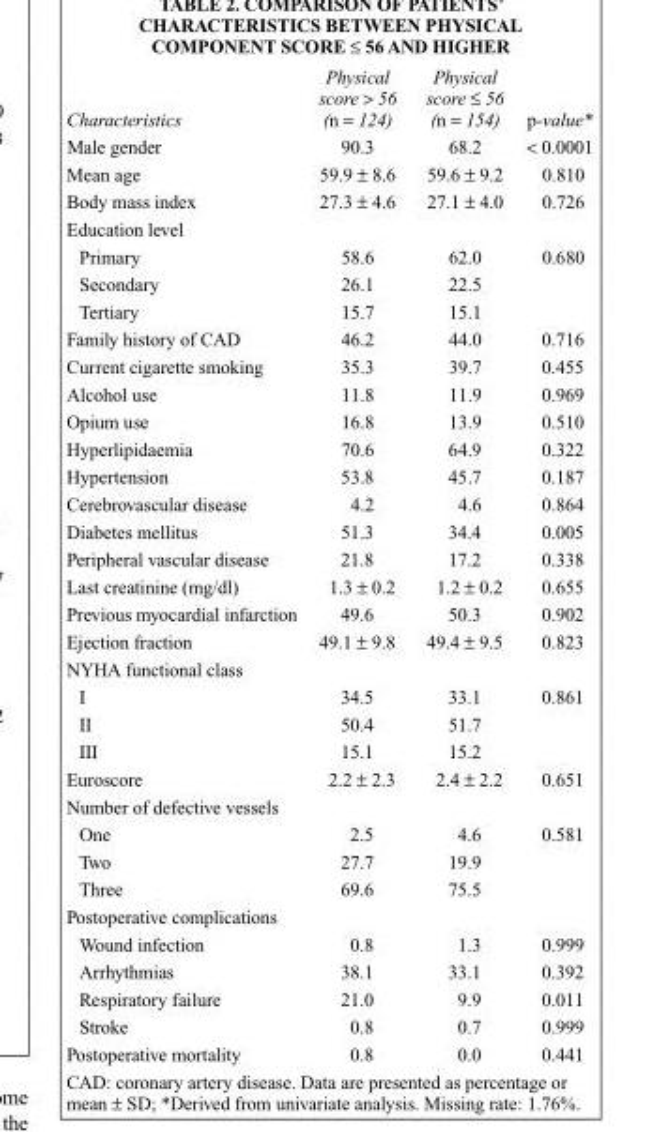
<table><thead><tr><td>Characteristics</td><td>Physical score &gt; 56 (n = 124)</td><td>Physical score ≤ 56 (n = 154)</td><td>p-value*</td></tr></thead><tbody><tr><td>Male gender</td><td>90.3</td><td>68.2</td><td>&lt; 0.0001</td></tr><tr><td>Mean age</td><td>59.9 ± 8.6</td><td>59.6 ± 9.2</td><td>0.810</td></tr><tr><td>Body mass index</td><td>27.3 ± 4.6</td><td>27.1 ± 4.0</td><td>0.726</td></tr><tr><td colspan="4">Education level</td></tr><tr><td>Primary</td><td>58.6</td><td>62.0</td><td>0.680</td></tr><tr><td>Secondary</td><td>26.1</td><td>22.5</td><td></td></tr><tr><td>Tertiary</td><td>15.7</td><td>15.1</td><td></td></tr><tr><td>Family history of CAD</td><td>46.2</td><td>44.0</td><td>0.716</td></tr><tr><td>Current cigarette smoking</td><td>35.3</td><td>39.7</td><td>0.455</td></tr><tr><td>Alcohol use</td><td>11.8</td><td>11.9</td><td>0.969</td></tr><tr><td>Opium use</td><td>16.8</td><td>13.9</td><td>0.510</td></tr><tr><td>Hyperlipidaemia</td><td>70.6</td><td>64.9</td><td>0.322</td></tr><tr><td>Hypertension</td><td>53.8</td><td>45.7</td><td>0.187</td></tr><tr><td>Cerebrovascular disease</td><td>4.2</td><td>4.6</td><td>0.864</td></tr><tr><td>Diabetes mellitus</td><td>51.3</td><td>34.4</td><td>0.005</td></tr><tr><td>Peripheral vascular disease</td><td>21.8</td><td>17.2</td><td>0.338</td></tr><tr><td>Last creatinine (mg/dl)</td><td>1.3 ± 0.2</td><td>1.2 ± 0.2</td><td>0.655</td></tr><tr><td>Previous myocardial infarction</td><td>49.6</td><td>50.3</td><td>0.902</td></tr><tr><td>Ejection fraction</td><td>49.1 ± 9.8</td><td>49.4 ± 9.5</td><td>0.823</td></tr><tr><td colspan="4">NYHA functional class</td></tr><tr><td>I</td><td>34.5</td><td>33.1</td><td>0.861</td></tr><tr><td>II</td><td>50.4</td><td>51.7</td><td></td></tr><tr><td>III</td><td>15.1</td><td>15.2</td><td></td></tr><tr><td>Euroscore</td><td>2.2 ± 2.3</td><td>2.4 ± 2.2</td><td>0.651</td></tr><tr><td colspan="4">Number of defective vessels</td></tr><tr><td>One</td><td>2.5</td><td>4.6</td><td>0.581</td></tr><tr><td>Two</td><td>27.7</td><td>19.9</td><td></td></tr><tr><td>Three</td><td>69.6</td><td>75.5</td><td></td></tr><tr><td colspan="4">Postoperative complications</td></tr><tr><td>Wound infection</td><td>0.8</td><td>1.3</td><td>0.999</td></tr><tr><td>Arrhythmias</td><td>38.1</td><td>33.1</td><td>0.392</td></tr><tr><td>Respiratory failure</td><td>21.0</td><td>9.9</td><td>0.011</td></tr><tr><td>Stroke</td><td>0.8</td><td>0.7</td><td>0.999</td></tr><tr><td>Postoperative mortality</td><td>0.8</td><td>0.0</td><td>0.441</td></tr></tbody></table>